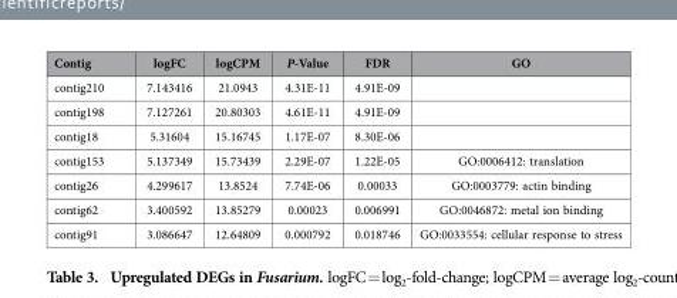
<table><thead><tr><td>Contig</td><td>logFC</td><td>logCPM</td><td>P-Value</td><td>FDR</td><td>GO</td></tr></thead><tbody><tr><td>contig210</td><td>7.143416</td><td>21.0943</td><td>4.31E-11</td><td>4.91E-09</td><td></td></tr><tr><td>contig198</td><td>7.127261</td><td>20.80303</td><td>4.61E-11</td><td>4.91E-09</td><td></td></tr><tr><td>contig18</td><td>5.31604</td><td>15.16745</td><td>1.17E-07</td><td>8.30E-06</td><td></td></tr><tr><td>contig153</td><td>5.137349</td><td>15.73439</td><td>2.29E-07</td><td>1.22E-05</td><td>GO:0006412: translation</td></tr><tr><td>contig26</td><td>4.299617</td><td>13.8524</td><td>7.74E-06</td><td>0.00033</td><td>GO:0003779: actin binding</td></tr><tr><td>contig62</td><td>3.400592</td><td>13.85279</td><td>0.00023</td><td>0.006991</td><td>GO:0046872: metal ion binding</td></tr><tr><td>contig91</td><td>3.086647</td><td>12.64809</td><td>0.000792</td><td>0.018746</td><td>GO:0033554: cellular response to stress</td></tr></tbody></table>